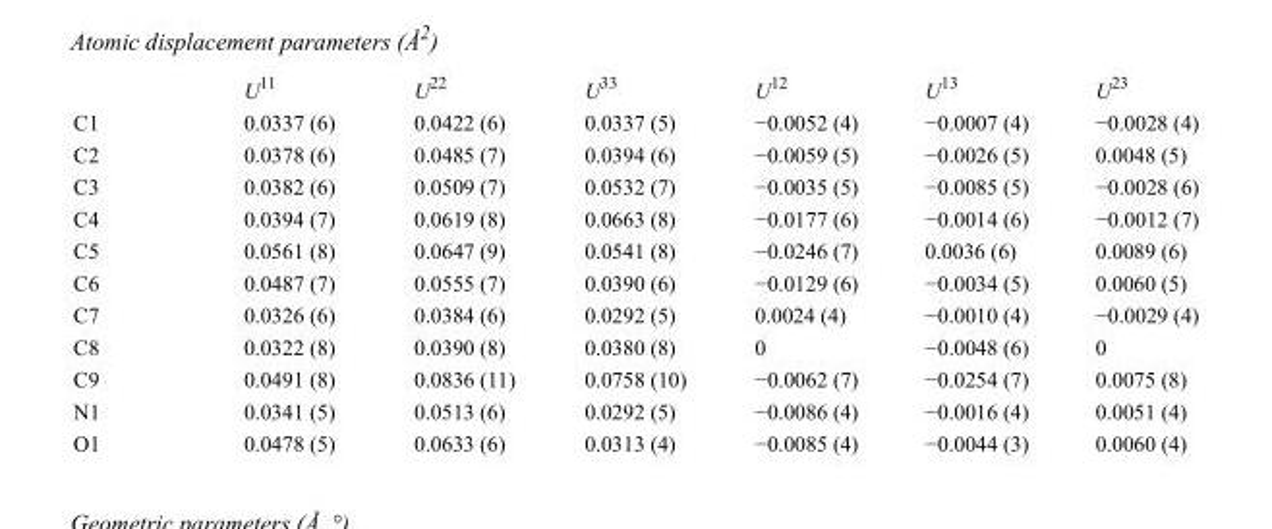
<table><thead><tr><td></td><td>U<sup>11</sup></td><td>U<sup>22</sup></td><td>U<sup>33</sup></td><td>U<sup>12</sup></td><td>U<sup>13</sup></td><td>U<sup>23</sup></td></tr></thead><tbody><tr><td>C1</td><td>0.0337 (6)</td><td>0.0422 (6)</td><td>0.0337 (5)</td><td>−0.0052 (4)</td><td>−0.0007 (4)</td><td>−0.0028 (4)</td></tr><tr><td>C2</td><td>0.0378 (6)</td><td>0.0485 (7)</td><td>0.0394 (6)</td><td>−0.0059 (5)</td><td>−0.0026 (5)</td><td>0.0048 (5)</td></tr><tr><td>C3</td><td>0.0382 (6)</td><td>0.0509 (7)</td><td>0.0532 (7)</td><td>−0.0035 (5)</td><td>−0.0085 (5)</td><td>−0.0028 (6)</td></tr><tr><td>C4</td><td>0.0394 (7)</td><td>0.0619 (8)</td><td>0.0663 (8)</td><td>−0.0177 (6)</td><td>−0.0014 (6)</td><td>−0.0012 (7)</td></tr><tr><td>C5</td><td>0.0561 (8)</td><td>0.0647 (9)</td><td>0.0541 (8)</td><td>−0.0246 (7)</td><td>0.0036 (6)</td><td>0.0089 (6)</td></tr><tr><td>C6</td><td>0.0487 (7)</td><td>0.0555 (7)</td><td>0.0390 (6)</td><td>−0.0129 (6)</td><td>−0.0034 (5)</td><td>0.0060 (5)</td></tr><tr><td>C7</td><td>0.0326 (6)</td><td>0.0384 (6)</td><td>0.0292 (5)</td><td>0.0024 (4)</td><td>−0.0010 (4)</td><td>−0.0029 (4)</td></tr><tr><td>C8</td><td>0.0322 (8)</td><td>0.0390 (8)</td><td>0.0380 (8)</td><td>0</td><td>−0.0048 (6)</td><td>0</td></tr><tr><td>C9</td><td>0.0491 (8)</td><td>0.0836 (11)</td><td>0.0758 (10)</td><td>−0.0062 (7)</td><td>−0.0254 (7)</td><td>0.0075 (8)</td></tr><tr><td>N1</td><td>0.0341 (5)</td><td>0.0513 (6)</td><td>0.0292 (5)</td><td>−0.0086 (4)</td><td>−0.0016 (4)</td><td>0.0051 (4)</td></tr><tr><td>O1</td><td>0.0478 (5)</td><td>0.0633 (6)</td><td>0.0313 (4)</td><td>−0.0085 (4)</td><td>−0.0044 (3)</td><td>0.0060 (4)</td></tr></tbody></table>